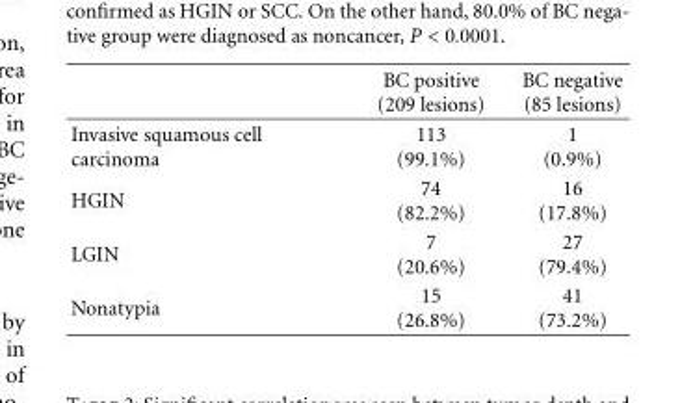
<table><thead><tr><td></td><td>BC positive (209 lesions)</td><td>BC negative (85 lesions)</td></tr></thead><tbody><tr><td>Invasive squamous cell carcinoma</td><td>113 (99.1%)</td><td>1 (0.9%)</td></tr><tr><td>HGIN</td><td>74 (82.2%)</td><td>16 (17.8%)</td></tr><tr><td>LGIN</td><td>7 (20.6%)</td><td>27 (79.4%)</td></tr><tr><td>Nonatypia</td><td>15 (26.8%)</td><td>41 (73.2%)</td></tr></tbody></table>